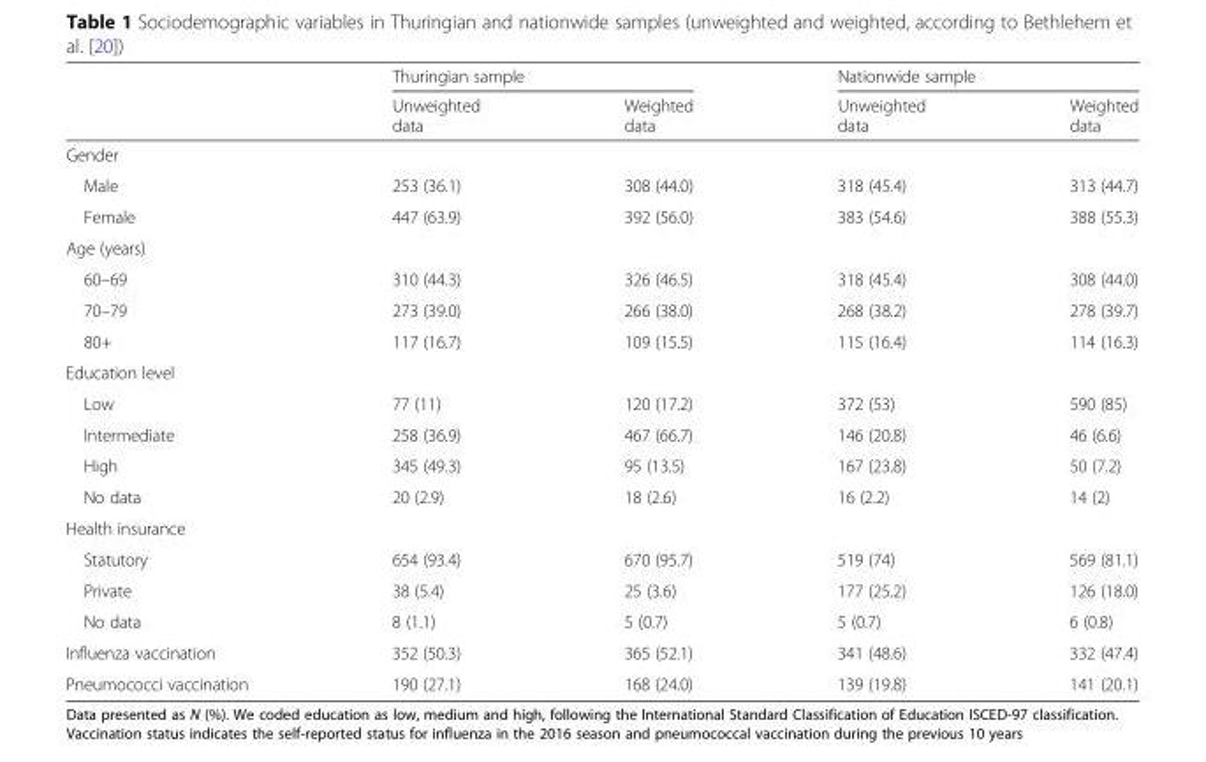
<table><thead><tr><td rowspan="2"></td><td colspan="2">Thuringian sample</td><td colspan="2">Nationwide sample</td></tr><tr><td>Unweighted data</td><td>Weighted data</td><td>Unweighted data</td><td>Weighted data</td></tr></thead><tbody><tr><td colspan="5">Gender</td></tr><tr><td>Male</td><td>253 (36.1)</td><td>308 (44.0)</td><td>318 (45.4)</td><td>313 (44.7)</td></tr><tr><td>Female</td><td>447 (63.9)</td><td>392 (56.0)</td><td>383 (54.6)</td><td>388 (55.3)</td></tr><tr><td colspan="5">Age (years)</td></tr><tr><td>60–69</td><td>310 (44.3)</td><td>326 (46.5)</td><td>318 (45.4)</td><td>308 (44.0)</td></tr><tr><td>70–79</td><td>273 (39.0)</td><td>266 (38.0)</td><td>268 (38.2)</td><td>278 (39.7)</td></tr><tr><td>80+</td><td>117 (16.7)</td><td>109 (15.5)</td><td>115 (16.4)</td><td>114 (16.3)</td></tr><tr><td colspan="5">Education level</td></tr><tr><td>Low</td><td>77 (11)</td><td>120 (17.2)</td><td>372 (53)</td><td>590 (85)</td></tr><tr><td>Intermediate</td><td>258 (36.9)</td><td>467 (66.7)</td><td>146 (20.8)</td><td>46 (6.6)</td></tr><tr><td>High</td><td>345 (49.3)</td><td>95 (13.5)</td><td>167 (23.8)</td><td>50 (7.2)</td></tr><tr><td>No data</td><td>20 (2.9)</td><td>18 (2.6)</td><td>16 (2.2)</td><td>14 (2)</td></tr><tr><td colspan="5">Health insurance</td></tr><tr><td>Statutory</td><td>654 (93.4)</td><td>670 (95.7)</td><td>519 (74)</td><td>569 (81.1)</td></tr><tr><td>Private</td><td>38 (5.4)</td><td>25 (3.6)</td><td>177 (25.2)</td><td>126 (18.0)</td></tr><tr><td>No data</td><td>8 (1.1)</td><td>5 (0.7)</td><td>5 (0.7)</td><td>6 (0.8)</td></tr><tr><td>Influenza vaccination</td><td>352 (50.3)</td><td>365 (52.1)</td><td>341 (48.6)</td><td>332 (47.4)</td></tr><tr><td>Pneumococci vaccination</td><td>190 (27.1)</td><td>168 (24.0)</td><td>139 (19.8)</td><td>141 (20.1)</td></tr></tbody></table>